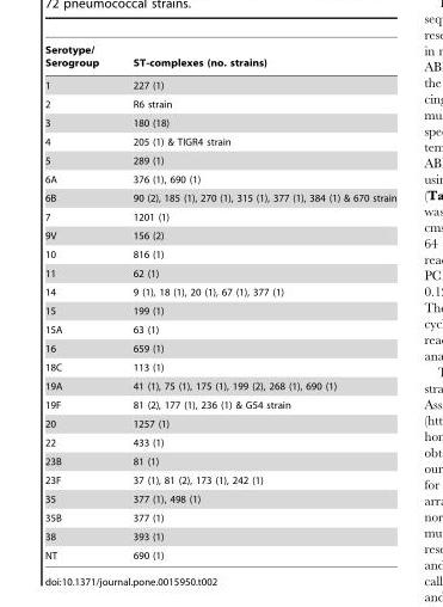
<table><thead><tr><td>Serotype/ Serogroup</td><td>ST-complexes (no. strains)</td></tr></thead><tbody><tr><td>1</td><td>227 (1)</td></tr><tr><td>2</td><td>R6 strain</td></tr><tr><td>3</td><td>180 (18)</td></tr><tr><td>4</td><td>205 (1) &amp; TIGR4 strain</td></tr><tr><td>5</td><td>289 (1)</td></tr><tr><td>6A</td><td>376 (1), 690 (1)</td></tr><tr><td>6B</td><td>90 (2), 185 (1), 270 (1), 315 (1), 377 (1), 384 (1) &amp; 670 strain</td></tr><tr><td>7</td><td>1201 (1)</td></tr><tr><td>9V</td><td>156 (2)</td></tr><tr><td>10</td><td>816 (1)</td></tr><tr><td>11</td><td>62 (1)</td></tr><tr><td>14</td><td>9 (1), 18 (1), 20 (1), 67 (1), 377 (1)</td></tr><tr><td>15</td><td>199 (1)</td></tr><tr><td>15A</td><td>63 (1)</td></tr><tr><td>16</td><td>659 (1)</td></tr><tr><td>18C</td><td>113 (1)</td></tr><tr><td>19A</td><td>41 (1), 75 (1), 175 (1), 199 (2), 268 (1), 690 (1)</td></tr><tr><td>19F</td><td>81 (2), 177 (1), 236 (1) &amp; G54 strain</td></tr><tr><td>20</td><td>1257 (1)</td></tr><tr><td>22</td><td>433 (1)</td></tr><tr><td>23B</td><td>81 (1)</td></tr><tr><td>23F</td><td>37 (1), 81 (2), 173 (1), 242 (1)</td></tr><tr><td>35</td><td>377 (1), 498 (1)</td></tr><tr><td>35B</td><td>377 (1)</td></tr><tr><td>38</td><td>393 (1)</td></tr><tr><td>NT</td><td>690 (1)</td></tr></tbody></table>